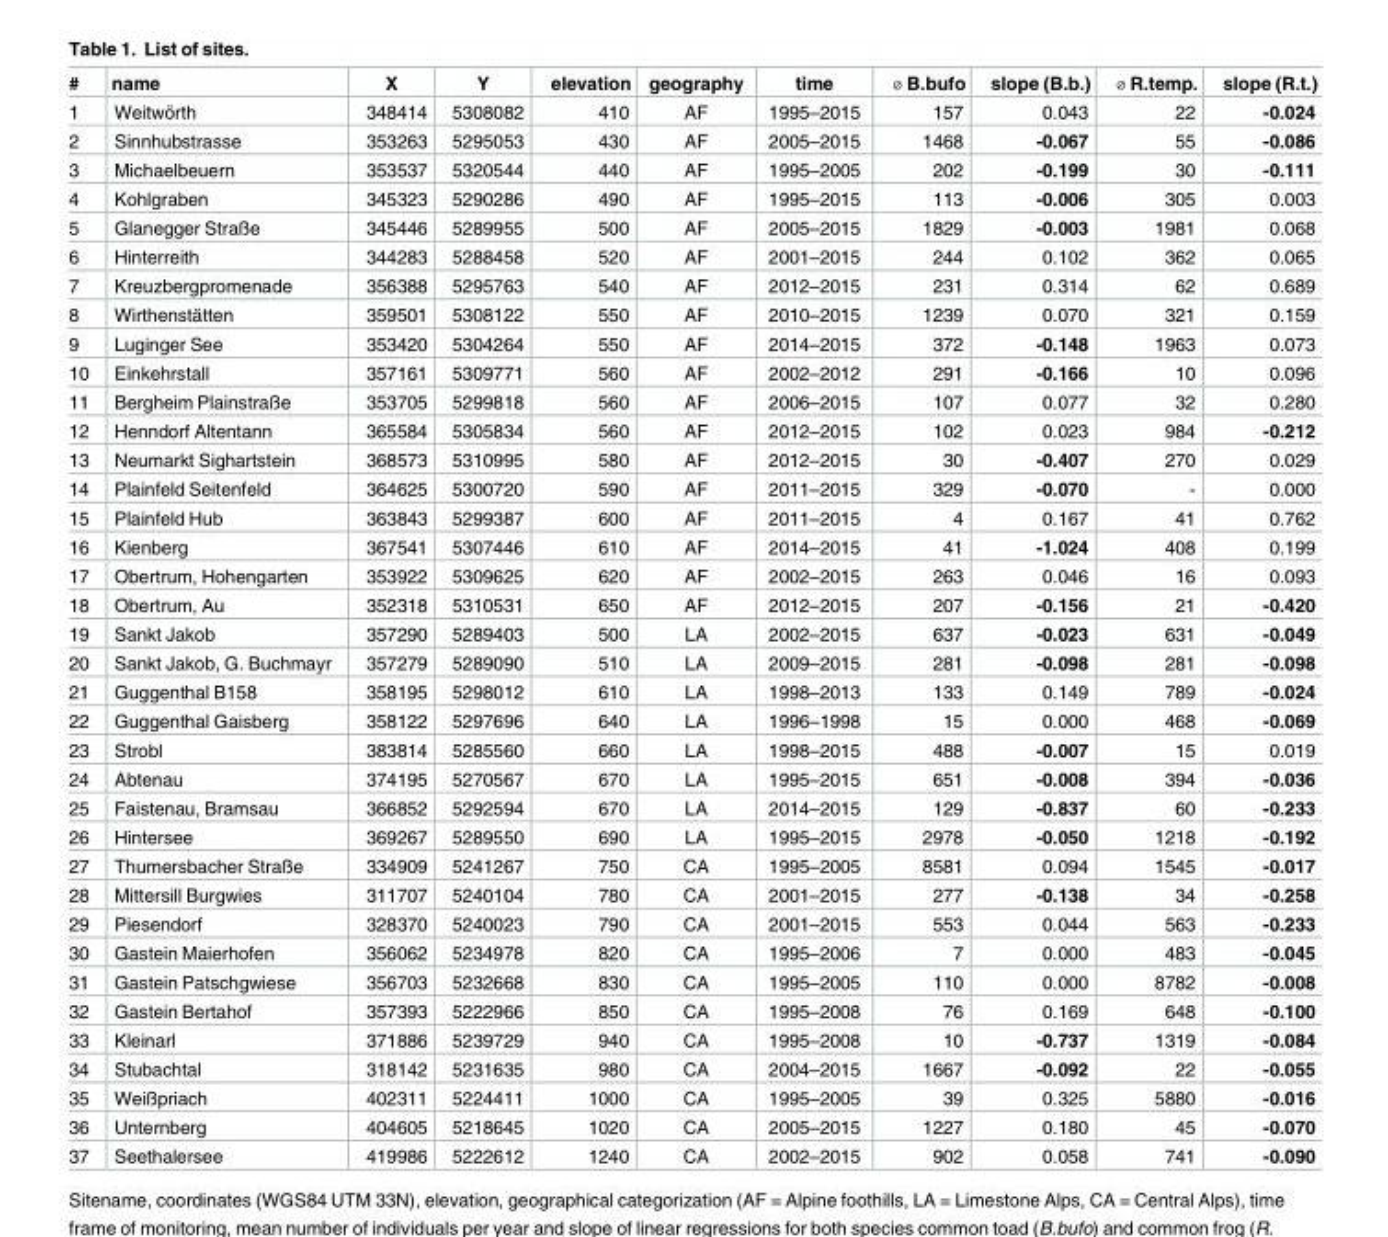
<table><thead><tr><td>#</td><td>name</td><td>X</td><td>Y</td><td>elevation</td><td>geography</td><td>time</td><td>⌀ B.bufo</td><td>slope (B.b.)</td><td>⌀ R.temp.</td><td>slope (R.t.)</td></tr></thead><tbody><tr><td>1</td><td>Weitwo¨rth</td><td>348414</td><td>5308082</td><td>410</td><td>AF</td><td>1995–2015</td><td>157</td><td>0.043</td><td>22</td><td>-0.024</td></tr><tr><td>2</td><td>Sinnhubstrasse</td><td>353263</td><td>5295053</td><td>430</td><td>AF</td><td>2005–2015</td><td>1468</td><td>-0.067</td><td>55</td><td>-0.086</td></tr><tr><td>3</td><td>Michaelbeuern</td><td>353537</td><td>5320544</td><td>440</td><td>AF</td><td>1995–2005</td><td>202</td><td>-0.199</td><td>30</td><td>-0.111</td></tr><tr><td>4</td><td>Kohlgraben</td><td>345323</td><td>5290286</td><td>490</td><td>AF</td><td>1995–2015</td><td>113</td><td>-0.006</td><td>305</td><td>0.003</td></tr><tr><td>5</td><td>Glanegger Straße</td><td>345446</td><td>5289955</td><td>500</td><td>AF</td><td>2005–2015</td><td>1829</td><td>-0.003</td><td>1981</td><td>0.068</td></tr><tr><td>6</td><td>Hinterreith</td><td>344283</td><td>5288458</td><td>520</td><td>AF</td><td>2001–2015</td><td>244</td><td>0.102</td><td>362</td><td>0.065</td></tr><tr><td>7</td><td>Kreuzbergpromenade</td><td>356388</td><td>5295763</td><td>540</td><td>AF</td><td>2012–2015</td><td>231</td><td>0.314</td><td>62</td><td>0.689</td></tr><tr><td>8</td><td>Wirthensta¨tten</td><td>359501</td><td>5308122</td><td>550</td><td>AF</td><td>2010–2015</td><td>1239</td><td>0.070</td><td>321</td><td>0.159</td></tr><tr><td>9</td><td>Luginger See</td><td>353420</td><td>5304264</td><td>550</td><td>AF</td><td>2014–2015</td><td>372</td><td>-0.148</td><td>1963</td><td>0.073</td></tr><tr><td>10</td><td>Einkehrstall</td><td>357161</td><td>5309771</td><td>560</td><td>AF</td><td>2002–2012</td><td>291</td><td>-0.166</td><td>10</td><td>0.096</td></tr><tr><td>11</td><td>Bergheim Plainstraße</td><td>353705</td><td>5299818</td><td>560</td><td>AF</td><td>2006–2015</td><td>107</td><td>0.077</td><td>32</td><td>0.280</td></tr><tr><td>12</td><td>Henndorf Altentann</td><td>365584</td><td>5305834</td><td>560</td><td>AF</td><td>2012–2015</td><td>102</td><td>0.023</td><td>984</td><td>-0.212</td></tr><tr><td>13</td><td>Neumarkt Sighartstein</td><td>368573</td><td>5310995</td><td>580</td><td>AF</td><td>2012–2015</td><td>30</td><td>-0.407</td><td>270</td><td>0.029</td></tr><tr><td>14</td><td>Plainfeld Seitenfeld</td><td>364625</td><td>5300720</td><td>590</td><td>AF</td><td>2011–2015</td><td>329</td><td>-0.070</td><td>-</td><td>0.000</td></tr><tr><td>15</td><td>Plainfeld Hub</td><td>363843</td><td>5299387</td><td>600</td><td>AF</td><td>2011–2015</td><td>4</td><td>0.167</td><td>41</td><td>0.762</td></tr><tr><td>16</td><td>Kienberg</td><td>367541</td><td>5307446</td><td>610</td><td>AF</td><td>2014–2015</td><td>41</td><td>-1.024</td><td>408</td><td>0.199</td></tr><tr><td>17</td><td>Obertrum, Hohengarten</td><td>353922</td><td>5309625</td><td>620</td><td>AF</td><td>2002–2015</td><td>263</td><td>0.046</td><td>16</td><td>0.093</td></tr><tr><td>18</td><td>Obertrum, Au</td><td>352318</td><td>5310531</td><td>650</td><td>AF</td><td>2012–2015</td><td>207</td><td>-0.156</td><td>21</td><td>-0.420</td></tr><tr><td>19</td><td>Sankt Jakob</td><td>357290</td><td>5289403</td><td>500</td><td>LA</td><td>2002–2015</td><td>637</td><td>-0.023</td><td>631</td><td>-0.049</td></tr><tr><td>20</td><td>Sankt Jakob, G. Buchmayr</td><td>357279</td><td>5289090</td><td>510</td><td>LA</td><td>2009–2015</td><td>281</td><td>-0.098</td><td>281</td><td>-0.098</td></tr><tr><td>21</td><td>Guggenthal B158</td><td>358195</td><td>5298012</td><td>610</td><td>LA</td><td>1998–2013</td><td>133</td><td>0.149</td><td>789</td><td>-0.024</td></tr><tr><td>22</td><td>Guggenthal Gaisberg</td><td>358122</td><td>5297696</td><td>640</td><td>LA</td><td>1996–1998</td><td>15</td><td>0.000</td><td>468</td><td>-0.069</td></tr><tr><td>23</td><td>Strobl</td><td>383814</td><td>5285560</td><td>660</td><td>LA</td><td>1998–2015</td><td>488</td><td>-0.007</td><td>15</td><td>0.019</td></tr><tr><td>24</td><td>Abtenau</td><td>374195</td><td>5270567</td><td>670</td><td>LA</td><td>1995–2015</td><td>651</td><td>-0.008</td><td>394</td><td>-0.036</td></tr><tr><td>25</td><td>Faistenau, Bramsau</td><td>366852</td><td>5292594</td><td>670</td><td>LA</td><td>2014–2015</td><td>129</td><td>-0.837</td><td>60</td><td>-0.233</td></tr><tr><td>26</td><td>Hintersee</td><td>369267</td><td>5289550</td><td>690</td><td>LA</td><td>1995–2015</td><td>2978</td><td>-0.050</td><td>1218</td><td>-0.192</td></tr><tr><td>27</td><td>Thumersbacher Straße</td><td>334909</td><td>5241267</td><td>750</td><td>CA</td><td>1995–2005</td><td>8581</td><td>0.094</td><td>1545</td><td>-0.017</td></tr><tr><td>28</td><td>Mittersill Burgwies</td><td>311707</td><td>5240104</td><td>780</td><td>CA</td><td>2001–2015</td><td>277</td><td>-0.138</td><td>34</td><td>-0.258</td></tr><tr><td>29</td><td>Piesendorf</td><td>328370</td><td>5240023</td><td>790</td><td>CA</td><td>2001–2015</td><td>553</td><td>0.044</td><td>563</td><td>-0.233</td></tr><tr><td>30</td><td>Gastein Maierhofen</td><td>356062</td><td>5234978</td><td>820</td><td>CA</td><td>1995–2006</td><td>7</td><td>0.000</td><td>483</td><td>-0.045</td></tr><tr><td>31</td><td>Gastein Patschgwiese</td><td>356703</td><td>5232668</td><td>830</td><td>CA</td><td>1995–2005</td><td>110</td><td>0.000</td><td>8782</td><td>-0.008</td></tr><tr><td>32</td><td>Gastein Bertahof</td><td>357393</td><td>5222966</td><td>850</td><td>CA</td><td>1995–2008</td><td>76</td><td>0.169</td><td>648</td><td>-0.100</td></tr><tr><td>33</td><td>Kleinarl</td><td>371886</td><td>5239729</td><td>940</td><td>CA</td><td>1995–2008</td><td>10</td><td>-0.737</td><td>1319</td><td>-0.084</td></tr><tr><td>34</td><td>Stubachtal</td><td>318142</td><td>5231635</td><td>980</td><td>CA</td><td>2004–2015</td><td>1667</td><td>-0.092</td><td>22</td><td>-0.055</td></tr><tr><td>35</td><td>Weißpriach</td><td>402311</td><td>5224411</td><td>1000</td><td>CA</td><td>1995–2005</td><td>39</td><td>0.325</td><td>5880</td><td>-0.016</td></tr><tr><td>36</td><td>Unternberg</td><td>404605</td><td>5218645</td><td>1020</td><td>CA</td><td>2005–2015</td><td>1227</td><td>0.180</td><td>45</td><td>-0.070</td></tr><tr><td>37</td><td>Seethalersee</td><td>419986</td><td>5222612</td><td>1240</td><td>CA</td><td>2002–2015</td><td>902</td><td>0.058</td><td>741</td><td>-0.090</td></tr></tbody></table>